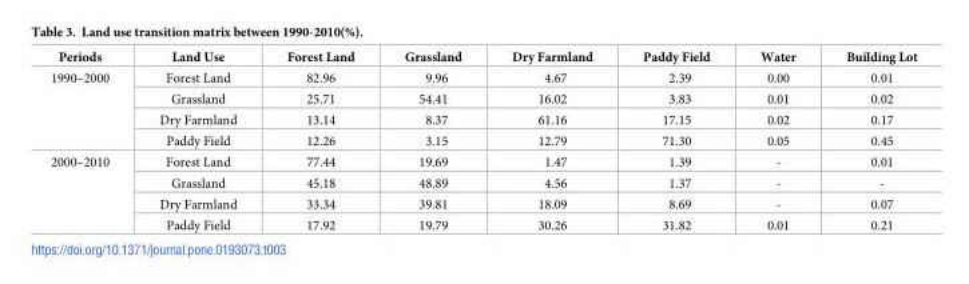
<table><thead><tr><td>Periods</td><td>Land Use</td><td>Forest Land</td><td>Grassland</td><td>Dry Farmland</td><td>Paddy Field</td><td>Water</td><td>Building Lot</td></tr></thead><tbody><tr><td rowspan="4">1990–2000</td><td>Forest Land</td><td>82.96</td><td>9.96</td><td>4.67</td><td>2.39</td><td>0.00</td><td>0.01</td></tr><tr><td>Grassland</td><td>25.71</td><td>54.41</td><td>16.02</td><td>3.83</td><td>0.01</td><td>0.02</td></tr><tr><td>Dry Farmland</td><td>13.14</td><td>8.37</td><td>61.16</td><td>17.15</td><td>0.02</td><td>0.17</td></tr><tr><td>Paddy Field</td><td>12.26</td><td>3.15</td><td>12.79</td><td>71.30</td><td>0.05</td><td>0.45</td></tr><tr><td rowspan="4">2000–2010</td><td>Forest Land</td><td>77.44</td><td>19.69</td><td>1.47</td><td>1.39</td><td>-</td><td>0.01</td></tr><tr><td>Grassland</td><td>45.18</td><td>48.89</td><td>4.56</td><td>1.37</td><td>-</td><td>-</td></tr><tr><td>Dry Farmland</td><td>33.34</td><td>39.81</td><td>18.09</td><td>8.69</td><td>-</td><td>0.07</td></tr><tr><td>Paddy Field</td><td>17.92</td><td>19.79</td><td>30.26</td><td>31.82</td><td>0.01</td><td>0.21</td></tr></tbody></table>